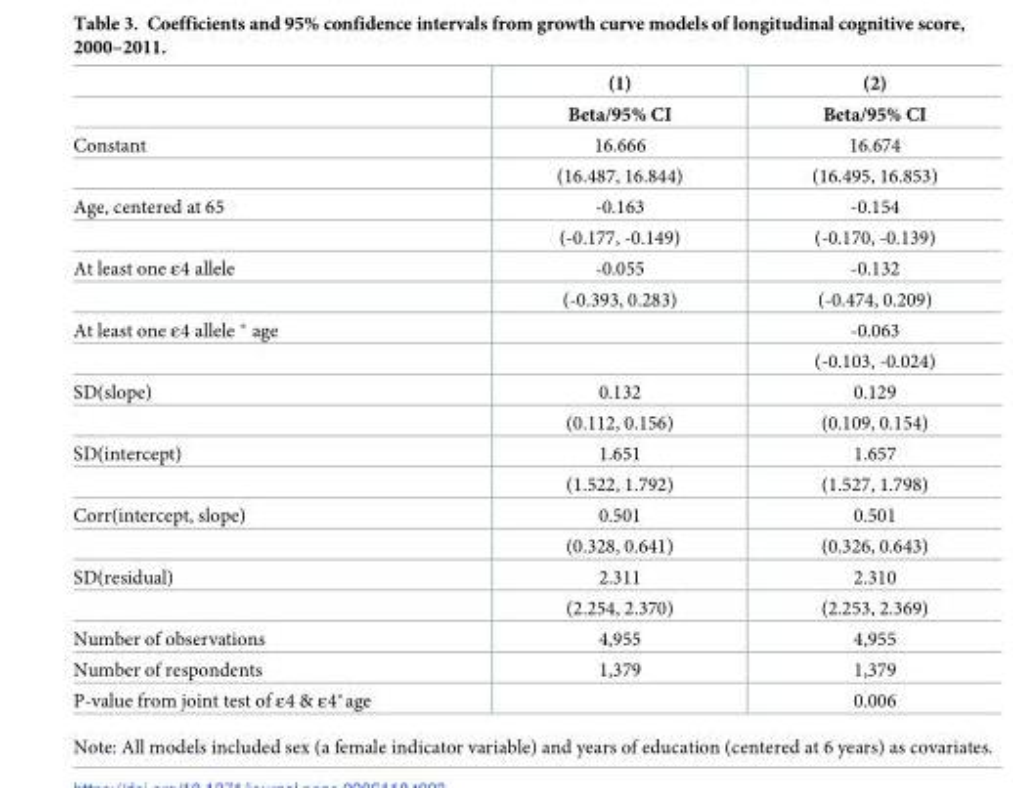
<table><thead><tr><td rowspan="2"></td><td rowspan="2">(1) Beta/95% CI</td><td rowspan="2">(2) Beta/95% CI</td></tr><tr></tr></thead><tbody><tr><td rowspan="2">Constant</td><td>16.666</td><td>16.674</td></tr><tr><td>(16.487, 16.844)</td><td>(16.495, 16.853)</td></tr><tr><td rowspan="2">Age, centered at 65</td><td>-0.163</td><td>-0.154</td></tr><tr><td>(-0.177, -0.149)</td><td>(-0.170, -0.139)</td></tr><tr><td rowspan="2">At least one ε4 allele</td><td>-0.055</td><td>-0.132</td></tr><tr><td>(-0.393, 0.283)</td><td>(-0.474, 0.209)</td></tr><tr><td rowspan="2">At least one ε4 allele * age</td><td></td><td>-0.063</td></tr><tr><td></td><td>(-0.103, -0.024)</td></tr><tr><td rowspan="2">SD(slope)</td><td>0.132</td><td>0.129</td></tr><tr><td>(0.112, 0.156)</td><td>(0.109, 0.154)</td></tr><tr><td rowspan="2">SD(intercept)</td><td>1.651</td><td>1.657</td></tr><tr><td>(1.522, 1.792)</td><td>(1.527, 1.798)</td></tr><tr><td rowspan="2">Corr(intercept, slope)</td><td>0.501</td><td>0.501</td></tr><tr><td>(0.328, 0.641)</td><td>(0.326, 0.643)</td></tr><tr><td rowspan="2">SD(residual)</td><td>2.311</td><td>2.310</td></tr><tr><td>(2.254, 2.370)</td><td>(2.253, 2.369)</td></tr><tr><td>Number of observations</td><td>4,955</td><td>4,955</td></tr><tr><td>Number of respondents</td><td>1,379</td><td>1,379</td></tr><tr><td>P-value from joint test of ε4 &amp; ε4*age</td><td></td><td>0.006</td></tr></tbody></table>